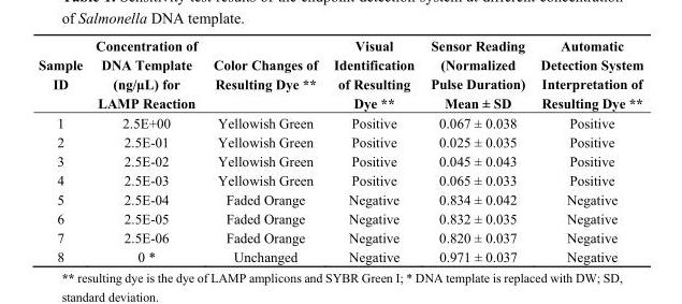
<table><thead><tr><td>Sample ID</td><td>Concentration of DNA Template (ng/µL) for LAMP Reaction</td><td>Color Changes of Resulting Dye **</td><td>Visual Identification of Resulting Dye **</td><td>Sensor Reading (Normalized Pulse Duration) Mean ± SD</td><td>Automatic Detection System Interpretation of Resulting Dye **</td></tr></thead><tbody><tr><td>1</td><td>2.5E+00</td><td>Yellowish Green</td><td>Positive</td><td>0.067 ± 0.038</td><td>Positive</td></tr><tr><td>2</td><td>2.5E-01</td><td>Yellowish Green</td><td>Positive</td><td>0.025 ± 0.035</td><td>Positive</td></tr><tr><td>3</td><td>2.5E-02</td><td>Yellowish Green</td><td>Positive</td><td>0.045 ± 0.043</td><td>Positive</td></tr><tr><td>4</td><td>2.5E-03</td><td>Yellowish Green</td><td>Positive</td><td>0.065 ± 0.033</td><td>Positive</td></tr><tr><td>5</td><td>2.5E-04</td><td>Faded Orange</td><td>Negative</td><td>0.834 ± 0.042</td><td>Negative</td></tr><tr><td>6</td><td>2.5E-05</td><td>Faded Orange</td><td>Negative</td><td>0.832 ± 0.035</td><td>Negative</td></tr><tr><td>7</td><td>2.5E-06</td><td>Faded Orange</td><td>Negative</td><td>0.820 ± 0.037</td><td>Negative</td></tr><tr><td>8</td><td>0 *</td><td>Unchanged</td><td>Negative</td><td>0.971 ± 0.037</td><td>Negative</td></tr></tbody></table>